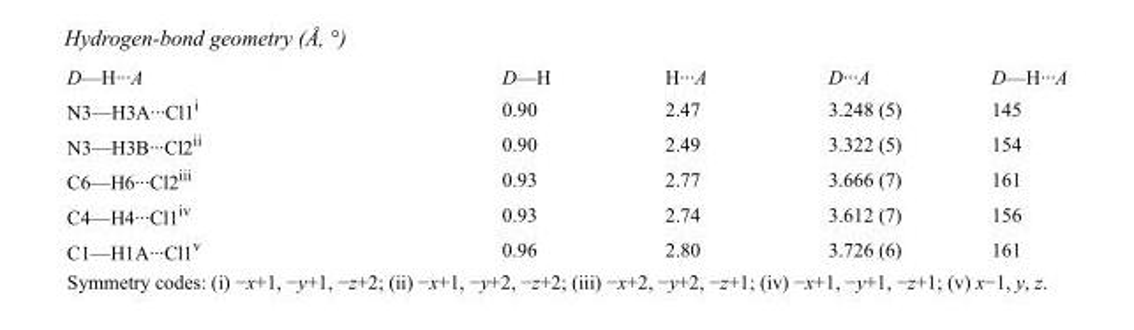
<table><tbody><tr><td>D—H···A</td><td>D—H</td><td>H···A</td><td>D···A</td><td>D—H···A</td></tr><tr><td>N3—H3A···Cl1<sup>i</sup></td><td>0.90</td><td>2.47</td><td>3.248 (5)</td><td>145</td></tr><tr><td>N3—H3B···Cl2<sup>ii</sup></td><td>0.90</td><td>2.49</td><td>3.322 (5)</td><td>154</td></tr><tr><td>C6—H6···Cl2<sup>iii</sup></td><td>0.93</td><td>2.77</td><td>3.666 (7)</td><td>161</td></tr><tr><td>C4—H4···Cl1<sup>iv</sup></td><td>0.93</td><td>2.74</td><td>3.612 (7)</td><td>156</td></tr><tr><td>C1—H1A···Cl1<sup>v</sup></td><td>0.96</td><td>2.80</td><td>3.726 (6)</td><td>161</td></tr></tbody></table>